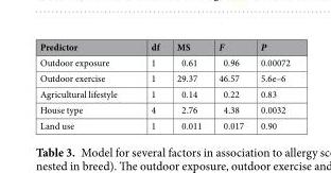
<table><thead><tr><td>Predictor</td><td>df</td><td>MS</td><td>F</td><td>P</td></tr></thead><tbody><tr><td>Outdoor exposure</td><td>1</td><td>0.61</td><td>0.96</td><td>0.00072</td></tr><tr><td>Outdoor exercise</td><td>1</td><td>29.37</td><td>46.57</td><td>5.6e–6</td></tr><tr><td>Agricultural lifestyle</td><td>1</td><td>0.14</td><td>0.22</td><td>0.83</td></tr><tr><td>House type</td><td>4</td><td>2.76</td><td>4.38</td><td>0.0032</td></tr><tr><td>Land use</td><td>1</td><td>0.011</td><td>0.017</td><td>0.90</td></tr></tbody></table>